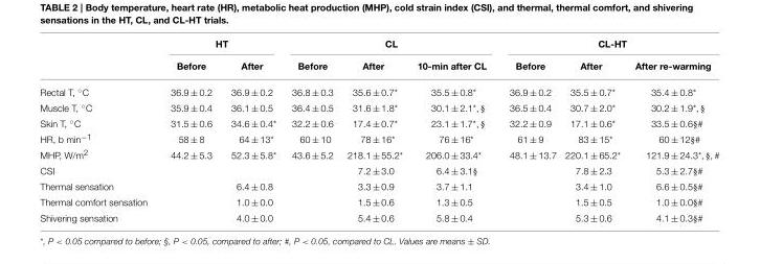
<table><thead><tr><td rowspan="2"></td><td colspan="2">HT</td><td colspan="3">CL</td><td colspan="3">CL-HT</td></tr><tr><td>Before</td><td>After</td><td>Before</td><td>After</td><td>10-min after CL</td><td>Before</td><td>After</td><td>After re-warming</td></tr></thead><tbody><tr><td>Rectal T, ◦C</td><td>36.9 ± 0.2</td><td>36.9 ± 0.2</td><td>36.8 ± 0.3</td><td>35.6 ± 0.7*</td><td>35.5 ± 0.8*</td><td>36.9 ± 0.2</td><td>35.5 ± 0.7*</td><td>35.4 ± 0.8*</td></tr><tr><td>Muscle T, ◦C</td><td>35.9 ± 0.4</td><td>36.1 ± 0.5</td><td>36.4 ± 0.5</td><td>31.6 ± 1.8*</td><td>30.1 ± 2.1*, <sup>§</sup></td><td>36.5 ± 0.4</td><td>30.7 ± 2.0*</td><td>30.2 ± 1.9*, <sup>§</sup></td></tr><tr><td>Skin T, ◦C</td><td>31.5 ± 0.6</td><td>34.6 ± 0.4*</td><td>32.2 ± 0.6</td><td>17.4 ± 0.7*</td><td>23.1 ± 1.7*, <sup>§</sup></td><td>32.2 ± 0.9</td><td>17.1 ± 0.6*</td><td>33.5 ± 0.6<sup>§#</sup></td></tr><tr><td>HR, b min<sup>−1</sup></td><td>58 ± 8</td><td>64 ± 13*</td><td>60 ± 10</td><td>78 ± 16*</td><td>76 ± 16*</td><td>61 ± 9</td><td>83 ± 15*</td><td>60 ± 12<sup>§#</sup></td></tr><tr><td>MHP, W/m<sup>2</sup></td><td>44.2 ± 5.3</td><td>52.3 ± 5.8*</td><td>43.6 ± 5.2</td><td>218.1 ± 55.2*</td><td>206.0 ± 33.4*</td><td>48.1 ± 13.7</td><td>220.1 ± 65.2*</td><td>121.9 ± 24.3*, <sup>§</sup>, <sup>#</sup></td></tr><tr><td>CSI</td><td></td><td></td><td></td><td>7.2 ± 3.0</td><td>6.4 ± 3.1<sup>§</sup></td><td></td><td>7.8 ± 2.3</td><td>5.3 ± 2.7<sup>§#</sup></td></tr><tr><td>Thermal sensation</td><td></td><td>6.4 ± 0.8</td><td></td><td>3.3 ± 0.9</td><td>3.7 ± 1.1</td><td></td><td>3.4 ± 1.0</td><td>6.6 ± 0.5<sup>§#</sup></td></tr><tr><td>Thermal comfort sensation</td><td></td><td>1.0 ± 0.0</td><td></td><td>1.5 ± 0.6</td><td>1.3 ± 0.5</td><td></td><td>1.5 ± 0.5</td><td>1.0 ± 0.0<sup>§#</sup></td></tr><tr><td>Shivering sensation</td><td></td><td>4.0 ± 0.0</td><td></td><td>5.4 ± 0.6</td><td>5.8 ± 0.4</td><td></td><td>5.3 ± 0.6</td><td>4.1 ± 0.3<sup>§#</sup></td></tr></tbody></table>